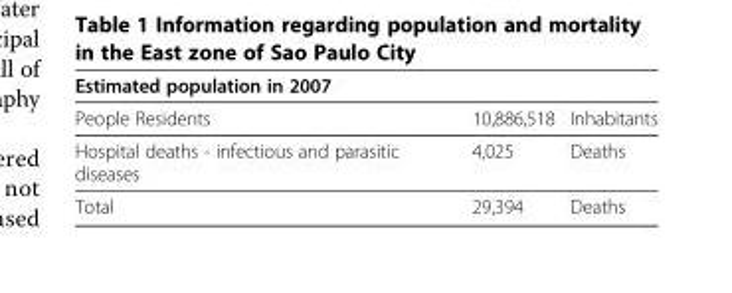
<table><thead><tr><td colspan="3">Estimated population in 2007</td></tr><tr><td>People Residents</td><td>10,886,518</td><td>Inhabitants</td></tr></thead><tbody><tr><td>Hospital deaths - infectious and parasitic diseases</td><td>4,025</td><td>Deaths</td></tr><tr><td>Total</td><td>29,394</td><td>Deaths</td></tr></tbody></table>